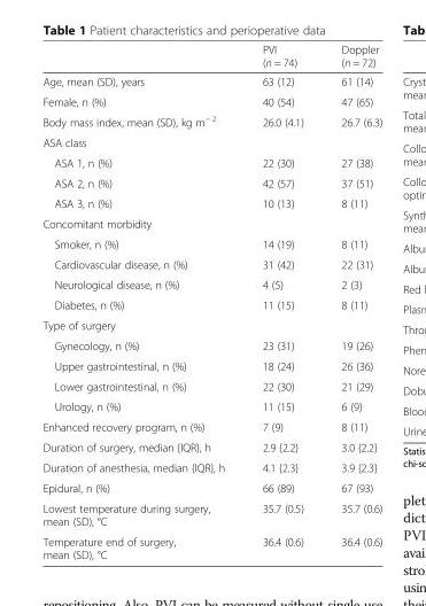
<table><thead><tr><td></td><td>PVI (n = 74)</td><td>Doppler (n = 72)</td></tr></thead><tbody><tr><td>Age, mean (SD), years</td><td>63 (12)</td><td>61 (14)</td></tr><tr><td>Female, n (%)</td><td>40 (54)</td><td>47 (65)</td></tr><tr><td>Body mass index, mean (SD), kg m<sup>− 2</sup></td><td>26.0 (4.1)</td><td>26.7 (6.3)</td></tr><tr><td colspan="3">ASA class</td></tr><tr><td>ASA 1, n (%)</td><td>22 (30)</td><td>27 (38)</td></tr><tr><td>ASA 2, n (%)</td><td>42 (57)</td><td>37 (51)</td></tr><tr><td>ASA 3, n (%)</td><td>10 (13)</td><td>8 (11)</td></tr><tr><td colspan="3">Concomitant morbidity</td></tr><tr><td>Smoker, n (%)</td><td>14 (19)</td><td>8 (11)</td></tr><tr><td>Cardiovascular disease, n (%)</td><td>31 (42)</td><td>22 (31)</td></tr><tr><td>Neurological disease, n (%)</td><td>4 (5)</td><td>2 (3)</td></tr><tr><td>Diabetes, n (%)</td><td>11 (15)</td><td>8 (11)</td></tr><tr><td colspan="3">Type of surgery</td></tr><tr><td>Gynecology, n (%)</td><td>23 (31)</td><td>19 (26)</td></tr><tr><td>Upper gastrointestinal, n (%)</td><td>18 (24)</td><td>26 (36)</td></tr><tr><td>Lower gastrointestinal, n (%)</td><td>22 (30)</td><td>21 (29)</td></tr><tr><td>Urology, n (%)</td><td>11 (15)</td><td>6 (9)</td></tr><tr><td>Enhanced recovery program, n (%)</td><td>7 (9)</td><td>8 (11)</td></tr><tr><td>Duration of surgery, median {IQR}, h</td><td>2.9 {2.2}</td><td>3.0 {2.2}</td></tr><tr><td>Duration of anesthesia, median {IQR}, h</td><td>4.1 {2.3}</td><td>3.9 {2.3}</td></tr><tr><td>Epidural, n (%)</td><td>66 (89)</td><td>67 (93)</td></tr><tr><td>Lowest temperature during surgery, mean (SD), °C</td><td>35.7 (0.5)</td><td>35.7 (0.6)</td></tr><tr><td>Temperature end of surgery, mean (SD), °C</td><td>36.4 (0.6)</td><td>36.4 (0.6)</td></tr></tbody></table>